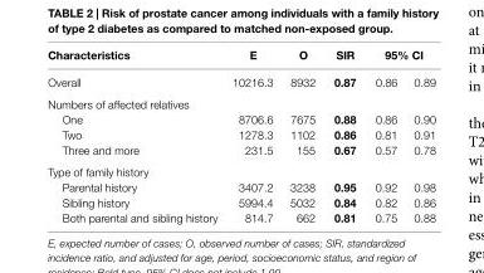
<table><thead><tr><td rowspan="2">characteristics Overall</td><td rowspan="2">e 10216.3</td><td rowspan="2">O 8932</td><td rowspan="2">sir 0.87</td><td colspan="2">95% ci</td></tr><tr><td>0.86</td><td>0.89</td></tr></thead><tbody><tr><td colspan="6">Numbers of affected relatives</td></tr><tr><td>One</td><td>8706.6</td><td>7675</td><td>0.88</td><td>0.86</td><td>0.90</td></tr><tr><td>Two</td><td>1278.3</td><td>1102</td><td>0.86</td><td>0.81</td><td>0.91</td></tr><tr><td>Three and more</td><td>231.5</td><td>155</td><td>0.67</td><td>0.57</td><td>0.78</td></tr><tr><td colspan="6">Type of family history</td></tr><tr><td>Parental history</td><td>3407.2</td><td>3238</td><td>0.95</td><td>0.92</td><td>0.98</td></tr><tr><td>Sibling history</td><td>5994.4</td><td>5032</td><td>0.84</td><td>0.82</td><td>0.86</td></tr><tr><td>Both parental and sibling history</td><td>814.7</td><td>662</td><td>0.81</td><td>0.75</td><td>0.88</td></tr></tbody></table>